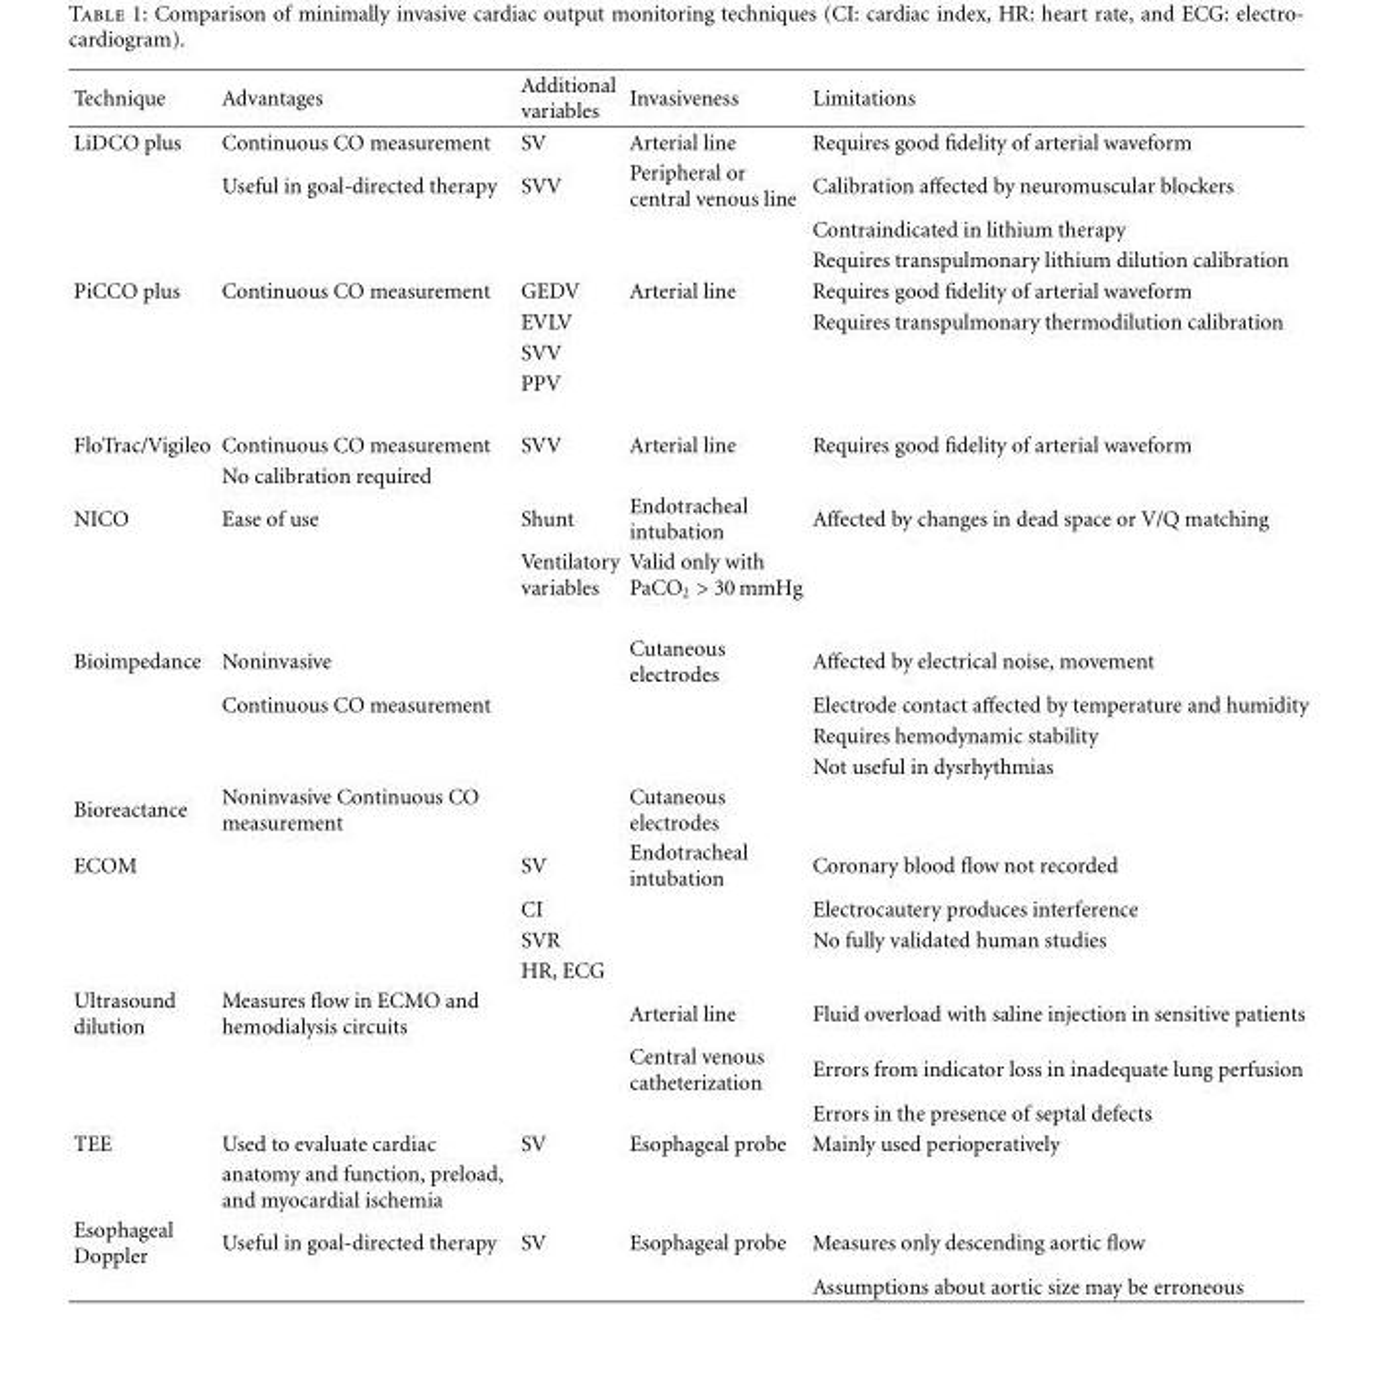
<table><thead><tr><td>Technique</td><td>Advantages</td><td>Additional variables</td><td>Invasiveness</td><td>Limitations</td></tr></thead><tbody><tr><td rowspan="4">LiDCO plus</td><td>Continuous CO measurement</td><td>SV</td><td>Arterial line</td><td>Requires good fidelity of arterial waveform</td></tr><tr><td>Useful in goal-directed therapy</td><td>SVV</td><td>Peripheral or central venous line</td><td>Calibration affected by neuromuscular blockers</td></tr><tr><td></td><td></td><td></td><td>Contraindicated in lithium therapy</td></tr><tr><td></td><td></td><td></td><td>Requires transpulmonary lithium dilution calibration</td></tr><tr><td rowspan="4">PiCCO plus</td><td>Continuous CO measurement</td><td>GEDV</td><td>Arterial line</td><td>Requires good fidelity of arterial waveform</td></tr><tr><td></td><td>EVLV</td><td></td><td>Requires transpulmonary thermodilution calibration</td></tr><tr><td></td><td>SVV</td><td></td><td></td></tr><tr><td></td><td>PPV</td><td></td><td></td></tr><tr><td rowspan="2">FloTrac/Vigileo</td><td>Continuous CO measurement</td><td>SVV</td><td>Arterial line</td><td>Requires good fidelity of arterial waveform</td></tr><tr><td>No calibration required</td><td></td><td></td><td></td></tr><tr><td rowspan="2">NICO</td><td>Ease of use</td><td>Shunt</td><td>Endotracheal intubation</td><td>Affected by changes in dead space or V/Q matching</td></tr><tr><td></td><td>Ventilatory variables</td><td>Valid only with PaCO<sub>2</sub> &gt; 30 mmHg</td><td></td></tr><tr><td rowspan="4">Bioimpedance</td><td>Noninvasive</td><td></td><td>Cutaneous electrodes</td><td>Affected by electrical noise, movement</td></tr><tr><td>Continuous CO measurement</td><td></td><td></td><td>Electrode contact affected by temperature and humidity</td></tr><tr><td></td><td></td><td></td><td>Requires hemodynamic stability</td></tr><tr><td></td><td></td><td></td><td>Not useful in dysrhythmias</td></tr><tr><td>Bioreactance</td><td>Noninvasive Continuous CO measurement</td><td></td><td>Cutaneous electrodes</td><td></td></tr><tr><td rowspan="4">ECOM</td><td></td><td>SV</td><td>Endotracheal intubation</td><td>Coronary blood flow not recorded</td></tr><tr><td></td><td>CI</td><td></td><td>Electrocautery produces interference</td></tr><tr><td></td><td>SVR</td><td></td><td>No fully validated human studies</td></tr><tr><td></td><td>HR, ECG</td><td></td><td></td></tr><tr><td rowspan="3">Ultrasound dilution</td><td>Measures flow in ECMO and hemodialysis circuits</td><td></td><td>Arterial line</td><td>Fluid overload with saline injection in sensitive patients</td></tr><tr><td></td><td></td><td>Central venous catheterization</td><td>Errors from indicator loss in inadequate lung perfusion</td></tr><tr><td></td><td></td><td></td><td>Errors in the presence of septal defects</td></tr><tr><td rowspan="2">TEE</td><td>Used to evaluate cardiac</td><td>SV</td><td>Esophageal probe</td><td>Mainly used perioperatively</td></tr><tr><td>anatomy and function, preload, and myocardial ischemia</td><td></td><td></td><td></td></tr><tr><td rowspan="2">Esophageal Doppler</td><td>Useful in goal-directed therapy</td><td>SV</td><td>Esophageal probe</td><td>Measures only descending aortic flow</td></tr><tr><td></td><td></td><td></td><td>Assumptions about aortic size may be erroneous</td></tr></tbody></table>